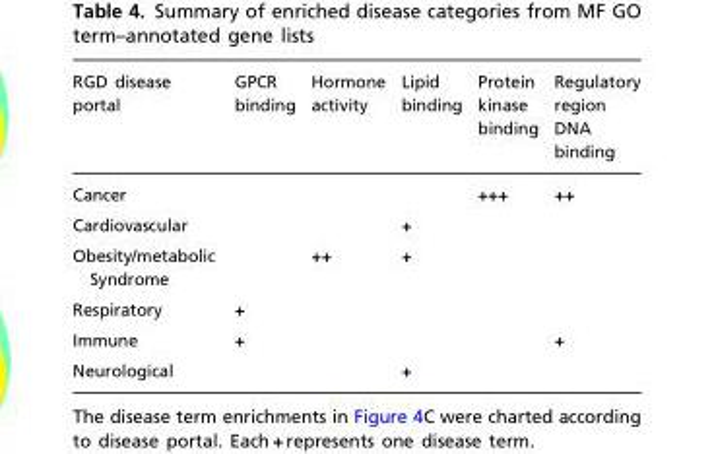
<table><thead><tr><td>RGD disease portal</td><td>GPCR binding</td><td>Hormone activity</td><td>Lipid binding</td><td>Protein kinase binding</td><td>Regulatory region DNA binding</td></tr></thead><tbody><tr><td>Cancer</td><td></td><td></td><td></td><td>+++</td><td>++</td></tr><tr><td>Cardiovascular</td><td></td><td></td><td>+</td><td></td><td></td></tr><tr><td>Obesity/metabolic Syndrome</td><td></td><td>++</td><td>+</td><td></td><td></td></tr><tr><td>Respiratory</td><td>+</td><td></td><td></td><td></td><td></td></tr><tr><td>Immune</td><td>+</td><td></td><td></td><td></td><td>+</td></tr><tr><td>Neurological</td><td></td><td></td><td>+</td><td></td><td></td></tr></tbody></table>